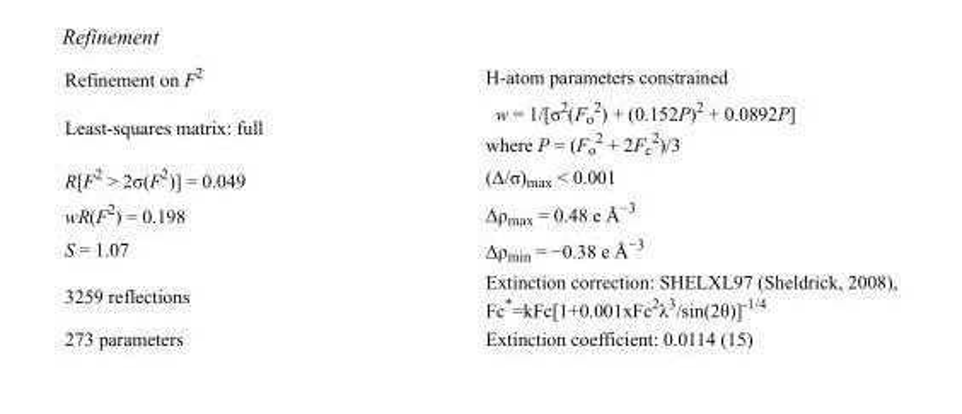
<table><tbody><tr><td>Refinement on F<sup>2</sup></td><td>H-atom parameters constrained</td></tr><tr><td>Least-squares matrix: full</td><td>w = 1/[σ<sup>2</sup>(F<sub>o</sub> <sup>2</sup>) + (0.152P)<sup>2</sup> + 0.0892P] where P = (F<sub>o</sub> <sup>2</sup> + 2F<sub>c</sub> <sup>2</sup>)/3</td></tr><tr><td>R[F<sup>2</sup> &gt; 2σ(F<sup>2</sup>)] = 0.049</td><td>(Δ/σ)<sub>max</sub> &lt; 0.001</td></tr><tr><td>wR(F<sup>2</sup>) = 0.198</td><td>Δρ<sub>max</sub> = 0.48 e Å<sup>−3</sup></td></tr><tr><td>S = 1.07</td><td>Δρ<sub>min</sub> = −0.38 e Å<sup>−3</sup></td></tr><tr><td>3259 reflections</td><td>Extinction correction: SHELXL97 (Sheldrick, 2008), Fc*=kFc[1+0.001xFc<sup>2</sup>λ<sup>3</sup>/sin(2θ)]<sup>-1/4</sup></td></tr><tr><td>273 parameters</td><td>Extinction coefficient: 0.0114 (15)</td></tr></tbody></table>